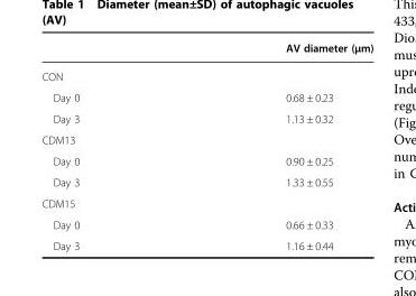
<table><thead><tr><td></td><td>AV diameter (µm)</td></tr></thead><tbody><tr><td colspan="2">CON</td></tr><tr><td>Day 0</td><td>0.68 ± 0.23</td></tr><tr><td>Day 3</td><td>1.13 ± 0.32</td></tr><tr><td colspan="2">CDM13</td></tr><tr><td>Day 0</td><td>0.90 ± 0.25</td></tr><tr><td>Day 3</td><td>1.33 ± 0.55</td></tr><tr><td colspan="2">CDM15</td></tr><tr><td>Day 0</td><td>0.66 ± 0.33</td></tr><tr><td>Day 3</td><td>1.16 ± 0.44</td></tr></tbody></table>